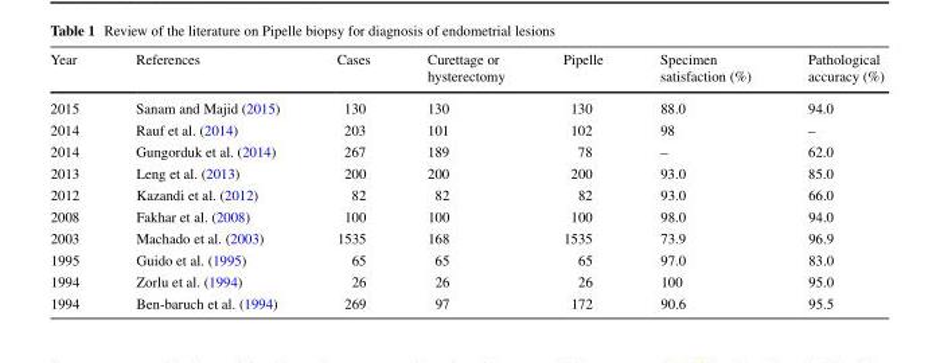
<table><thead><tr><td>Year</td><td>References</td><td>Cases</td><td>Curettage or hysterectomy</td><td>Pipelle</td><td>Specimen satisfaction (%)</td><td>Pathological accuracy (%)</td></tr></thead><tbody><tr><td>2015</td><td>Sanam and Majid (2015)</td><td>130</td><td>130</td><td>130</td><td>88.0</td><td>94.0</td></tr><tr><td>2014</td><td>Rauf et al. (2014)</td><td>203</td><td>101</td><td>102</td><td>98</td><td>–</td></tr><tr><td>2014</td><td>Gungorduk et al. (2014)</td><td>267</td><td>189</td><td>78</td><td>–</td><td>62.0</td></tr><tr><td>2013</td><td>Leng et al. (2013)</td><td>200</td><td>200</td><td>200</td><td>93.0</td><td>85.0</td></tr><tr><td>2012</td><td>Kazandi et al. (2012)</td><td>82</td><td>82</td><td>82</td><td>93.0</td><td>66.0</td></tr><tr><td>2008</td><td>Fakhar et al. (2008)</td><td>100</td><td>100</td><td>100</td><td>98.0</td><td>94.0</td></tr><tr><td>2003</td><td>Machado et al. (2003)</td><td>1535</td><td>168</td><td>1535</td><td>73.9</td><td>96.9</td></tr><tr><td>1995</td><td>Guido et al. (1995)</td><td>65</td><td>65</td><td>65</td><td>97.0</td><td>83.0</td></tr><tr><td>1994</td><td>Zorlu et al. (1994)</td><td>26</td><td>26</td><td>26</td><td>100</td><td>95.0</td></tr><tr><td>1994</td><td>Ben-baruch et al. (1994)</td><td>269</td><td>97</td><td>172</td><td>90.6</td><td>95.5</td></tr></tbody></table>